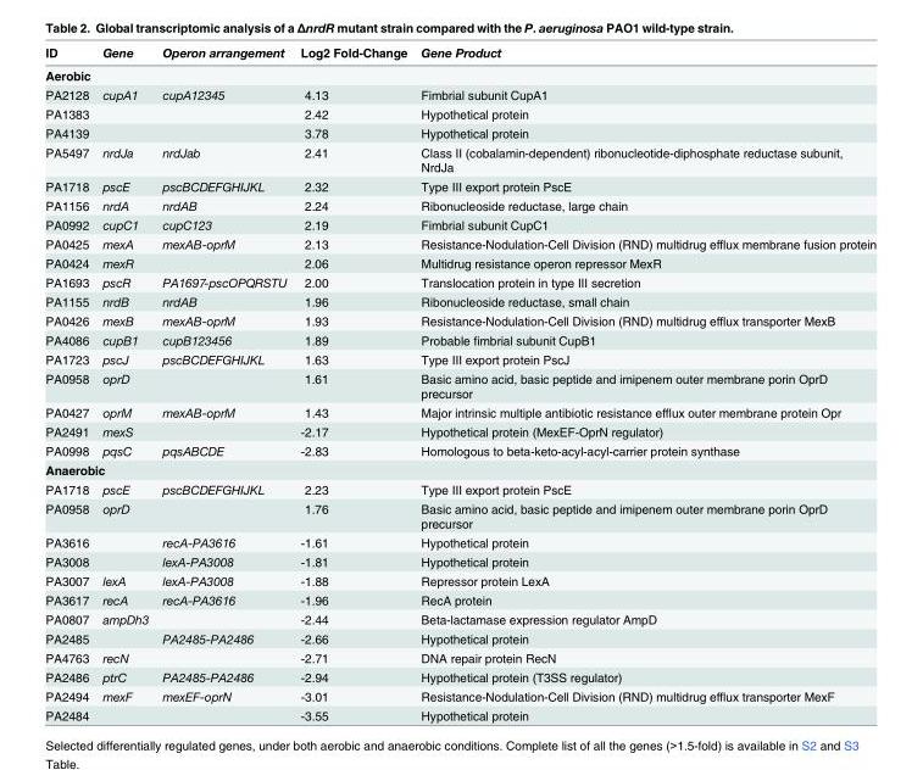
<table><thead><tr><td>ID</td><td>Gene</td><td>Operon arrangement</td><td>Log2 Fold-Change</td><td>Gene Product</td></tr></thead><tbody><tr><td colspan="5">Aerobic</td></tr><tr><td>PA2128</td><td>cupA1</td><td>cupA12345</td><td>4.13</td><td>Fimbrial subunit CupA1</td></tr><tr><td>PA1383</td><td></td><td></td><td>2.42</td><td>Hypothetical protein</td></tr><tr><td>PA4139</td><td></td><td></td><td>3.78</td><td>Hypothetical protein</td></tr><tr><td>PA5497</td><td>nrdJa</td><td>nrdJab</td><td>2.41</td><td>Class II (cobalamin-dependent) ribonucleotide-diphosphate reductase subunit, NrdJa</td></tr><tr><td>PA1718</td><td>pscE</td><td>pscBCDEFGHIJKL</td><td>2.32</td><td>Type III export protein PscE</td></tr><tr><td>PA1156</td><td>nrdA</td><td>nrdAB</td><td>2.24</td><td>Ribonucleoside reductase, large chain</td></tr><tr><td>PA0992</td><td>cupC1</td><td>cupC123</td><td>2.19</td><td>Fimbrial subunit CupC1</td></tr><tr><td>PA0425</td><td>mexA</td><td>mexAB-oprM</td><td>2.13</td><td>Resistance-Nodulation-Cell Division (RND) multidrug efflux membrane fusion protein</td></tr><tr><td>PA0424</td><td>mexR</td><td></td><td>2.06</td><td>Multidrug resistance operon repressor MexR</td></tr><tr><td>PA1693</td><td>pscR</td><td>PA1697-pscOPQRSTU</td><td>2.00</td><td>Translocation protein in type III secretion</td></tr><tr><td>PA1155</td><td>nrdB</td><td>nrdAB</td><td>1.96</td><td>Ribonucleoside reductase, small chain</td></tr><tr><td>PA0426</td><td>mexB</td><td>mexAB-oprM</td><td>1.93</td><td>Resistance-Nodulation-Cell Division (RND) multidrug efflux transporter MexB</td></tr><tr><td>PA4086</td><td>cupB1</td><td>cupB123456</td><td>1.89</td><td>Probable fimbrial subunit CupB1</td></tr><tr><td>PA1723</td><td>pscJ</td><td>pscBCDEFGHIJKL</td><td>1.63</td><td>Type III export protein PscJ</td></tr><tr><td>PA0958</td><td>oprD</td><td></td><td>1.61</td><td>Basic amino acid, basic peptide and imipenem outer membrane porin OprD precursor</td></tr><tr><td>PA0427</td><td>oprM</td><td>mexAB-oprM</td><td>1.43</td><td>Major intrinsic multiple antibiotic resistance efflux outer membrane protein Opr</td></tr><tr><td>PA2491</td><td>mexS</td><td></td><td>-2.17</td><td>Hypothetical protein (MexEF-OprN regulator)</td></tr><tr><td>PA0998</td><td>pqsC</td><td>pqsABCDE</td><td>-2.83</td><td>Homologous to beta-keto-acyl-acyl-carrier protein synthase</td></tr><tr><td colspan="5">Anaerobic</td></tr><tr><td>PA1718</td><td>pscE</td><td>pscBCDEFGHIJKL</td><td>2.23</td><td>Type III export protein PscE</td></tr><tr><td>PA0958</td><td>oprD</td><td></td><td>1.76</td><td>Basic amino acid, basic peptide and imipenem outer membrane porin OprD precursor</td></tr><tr><td>PA3616</td><td></td><td>recA-PA3616</td><td>-1.61</td><td>Hypothetical protein</td></tr><tr><td>PA3008</td><td></td><td>lexA-PA3008</td><td>-1.81</td><td>Hypothetical protein</td></tr><tr><td>PA3007</td><td>lexA</td><td>lexA-PA3008</td><td>-1.88</td><td>Repressor protein LexA</td></tr><tr><td>PA3617</td><td>recA</td><td>recA-PA3616</td><td>-1.96</td><td>RecA protein</td></tr><tr><td>PA0807</td><td>ampDh3</td><td></td><td>-2.44</td><td>Beta-lactamase expression regulator AmpD</td></tr><tr><td>PA2485</td><td></td><td>PA2485-PA2486</td><td>-2.66</td><td>Hypothetical protein</td></tr><tr><td>PA4763</td><td>recN</td><td></td><td>-2.71</td><td>DNA repair protein RecN</td></tr><tr><td>PA2486</td><td>ptrC</td><td>PA2485-PA2486</td><td>-2.94</td><td>Hypothetical protein (T3SS regulator)</td></tr><tr><td>PA2494</td><td>mexF</td><td>mexEF-oprN</td><td>-3.01</td><td>Resistance-Nodulation-Cell Division (RND) multidrug efflux transporter MexF</td></tr><tr><td>PA2484</td><td></td><td></td><td>-3.55</td><td>Hypothetical protein</td></tr></tbody></table>